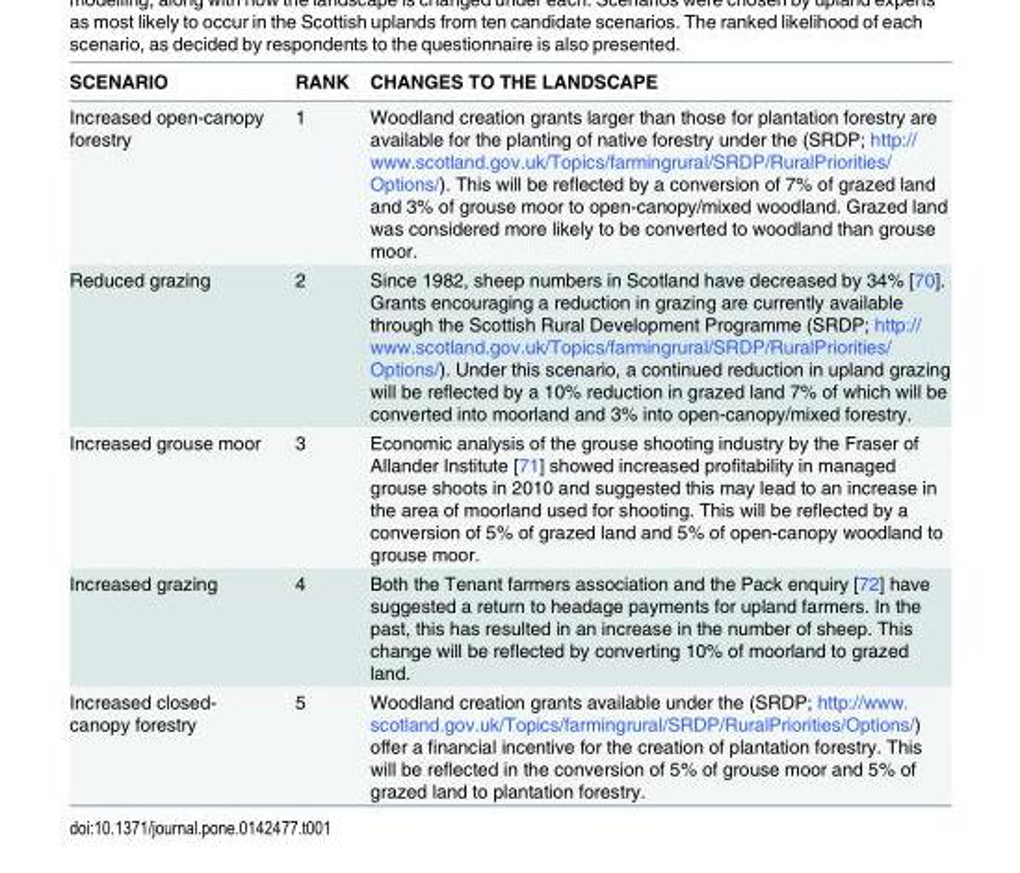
<table><thead><tr><td>SCENARIO</td><td>RANK</td><td>CHANGES TO THE LANDSCAPE</td></tr></thead><tbody><tr><td>Increased open-canopy forestry</td><td>1</td><td>Woodland creation grants larger than those for plantation forestry are available for the planting of native forestry under the (SRDP; http:// www.scotland.gov.uk/Topics/farmingrural/SRDP/RuralPriorities/ Options/). This will be reflected by a conversion of 7% of grazed land and 3% of grouse moor to open-canopy/mixed woodland. Grazed land was considered more likely to be converted to woodland than grouse moor.</td></tr><tr><td>Reduced grazing</td><td>2</td><td>Since 1982, sheep numbers in Scotland have decreased by 34% [70]. Grants encouraging a reduction in grazing are currently available through the Scottish Rural Development Programme (SRDP; http:// www.scotland.gov.uk/Topics/farmingrural/SRDP/RuralPriorities/ Options/). Under this scenario, a continued reduction in upland grazing will be reflected by a 10% reduction in grazed land 7% of which will be converted into moorland and 3% into open-canopy/mixed forestry.</td></tr><tr><td>Increased grouse moor</td><td>3</td><td>Economic analysis of the grouse shooting industry by the Fraser of Allander Institute [71] showed increased profitability in managed grouse shoots in 2010 and suggested this may lead to an increase in the area of moorland used for shooting. This will be reflected by a conversion of 5% of grazed land and 5% of open-canopy woodland to grouse moor.</td></tr><tr><td>Increased grazing</td><td>4</td><td>Both the Tenant farmers association and the Pack enquiry [72] have suggested a return to headage payments for upland farmers. In the past, this has resulted in an increase in the number of sheep. This change will be reflected by converting 10% of moorland to grazed land.</td></tr><tr><td>Increased closed- canopy forestry</td><td>5</td><td>Woodland creation grants available under the (SRDP; http://www. scotland.gov.uk/Topics/farmingrural/SRDP/RuralPriorities/Options/) offer a financial incentive for the creation of plantation forestry. This will be reflected in the conversion of 5% of grouse moor and 5% of grazed land to plantation forestry.</td></tr></tbody></table>